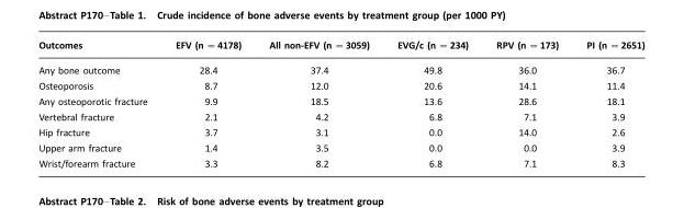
<table><thead><tr><td>Outcomes</td><td>EFV (n =4178)</td><td>All non-EFV (n =3059)</td><td>EVG/c (n =234)</td><td>RPV (n =173)</td><td>PI (n =2651)</td></tr></thead><tbody><tr><td>Any bone outcome</td><td>28.4</td><td>37.4</td><td>49.8</td><td>36.0</td><td>36.7</td></tr><tr><td>Osteoporosis</td><td>8.7</td><td>12.0</td><td>20.6</td><td>14.1</td><td>11.4</td></tr><tr><td>Any osteoporotic fracture</td><td>9.9</td><td>18.5</td><td>13.6</td><td>28.6</td><td>18.1</td></tr><tr><td>Vertebral fracture</td><td>2.1</td><td>4.2</td><td>6.8</td><td>7.1</td><td>3.9</td></tr><tr><td>Hip fracture</td><td>3.7</td><td>3.1</td><td>0.0</td><td>14.0</td><td>2.6</td></tr><tr><td>Upper arm fracture</td><td>1.4</td><td>3.5</td><td>0.0</td><td>0.0</td><td>3.9</td></tr><tr><td>Wrist/forearm fracture</td><td>3.3</td><td>8.2</td><td>6.8</td><td>7.1</td><td>8.3</td></tr></tbody></table>